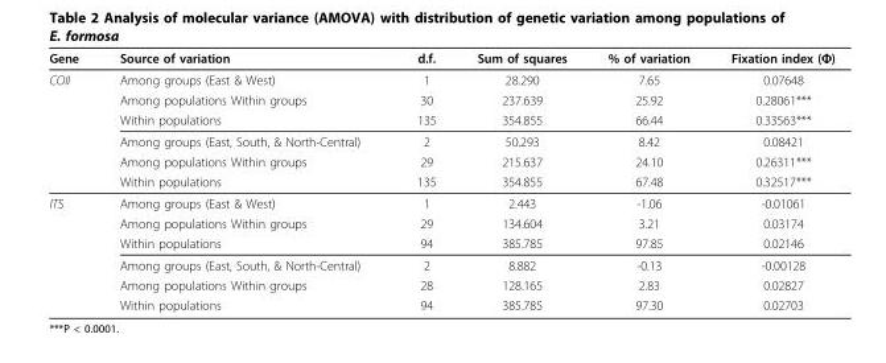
<table><thead><tr><td>Gene</td><td>Source of variation</td><td>d.f.</td><td>Sum of squares</td><td>% of variation</td><td>Fixation index (Φ)</td></tr></thead><tbody><tr><td rowspan="6">COII</td><td>Among groups (East &amp; West)</td><td>1</td><td>28.290</td><td>7.65</td><td>0.07648</td></tr><tr><td>Among populations Within groups</td><td>30</td><td>237.639</td><td>25.92</td><td>0.28061***</td></tr><tr><td>Within populations</td><td>135</td><td>354.855</td><td>66.44</td><td>0.33563***</td></tr><tr><td>Among groups (East, South, &amp; North-Central)</td><td>2</td><td>50.293</td><td>8.42</td><td>0.08421</td></tr><tr><td>Among populations Within groups</td><td>29</td><td>215.637</td><td>24.10</td><td>0.26311***</td></tr><tr><td>Within populations</td><td>135</td><td>354.855</td><td>67.48</td><td>0.32517***</td></tr><tr><td rowspan="6">ITS</td><td>Among groups (East &amp; West)</td><td>1</td><td>2.443</td><td>-1.06</td><td>-0.01061</td></tr><tr><td>Among populations Within groups</td><td>29</td><td>134.604</td><td>3.21</td><td>0.03174</td></tr><tr><td>Within populations</td><td>94</td><td>385.785</td><td>97.85</td><td>0.02146</td></tr><tr><td>Among groups (East, South, &amp; North-Central)</td><td>2</td><td>8.882</td><td>-0.13</td><td>-0.00128</td></tr><tr><td>Among populations Within groups</td><td>28</td><td>128.165</td><td>2.83</td><td>0.02827</td></tr><tr><td>Within populations</td><td>94</td><td>385.785</td><td>97.30</td><td>0.02703</td></tr></tbody></table>